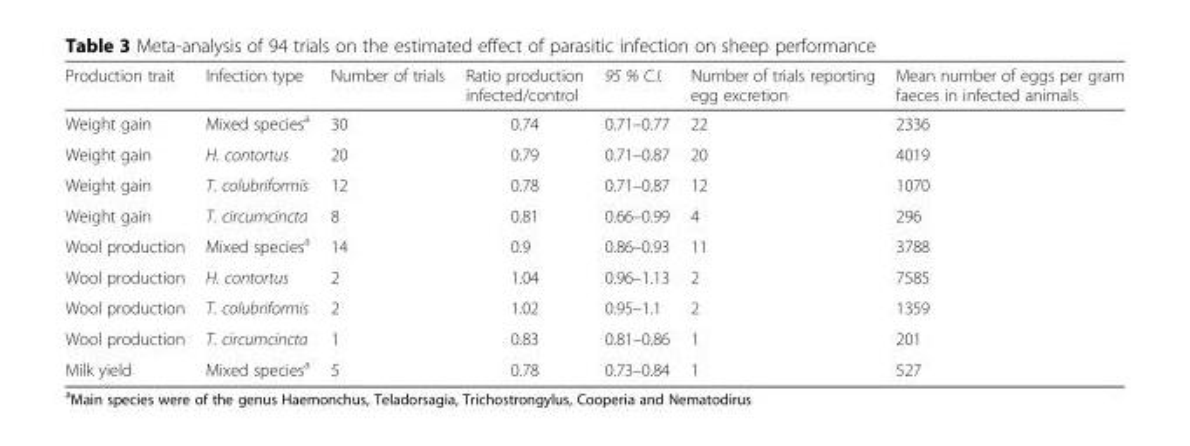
<table><thead><tr><td>Production trait</td><td>Infection type</td><td>Number of trials</td><td>Ratio production infected/control</td><td>95 % C.I.</td><td>Number of trials reporting egg excretion</td><td>Mean number of eggs per gram faeces in infected animals</td></tr></thead><tbody><tr><td>Weight gain</td><td>Mixed species<sup>a</sup></td><td>30</td><td>0.74</td><td>0.71–0.77</td><td>22</td><td>2336</td></tr><tr><td>Weight gain</td><td>H. contortus</td><td>20</td><td>0.79</td><td>0.71–0.87</td><td>20</td><td>4019</td></tr><tr><td>Weight gain</td><td>T. colubriformis</td><td>12</td><td>0.78</td><td>0.71–0.87</td><td>12</td><td>1070</td></tr><tr><td>Weight gain</td><td>T. circumcincta</td><td>8</td><td>0.81</td><td>0.66–0.99</td><td>4</td><td>296</td></tr><tr><td>Wool production</td><td>Mixed species<sup>a</sup></td><td>14</td><td>0.9</td><td>0.86–0.93</td><td>11</td><td>3788</td></tr><tr><td>Wool production</td><td>H. contortus</td><td>2</td><td>1.04</td><td>0.96–1.13</td><td>2</td><td>7585</td></tr><tr><td>Wool production</td><td>T. colubriformis</td><td>2</td><td>1.02</td><td>0.95–1.1</td><td>2</td><td>1359</td></tr><tr><td>Wool production</td><td>T. circumcincta</td><td>1</td><td>0.83</td><td>0.81–0.86</td><td>1</td><td>201</td></tr><tr><td>Milk yield</td><td>Mixed species<sup>a</sup></td><td>5</td><td>0.78</td><td>0.73–0.84</td><td>1</td><td>527</td></tr></tbody></table>